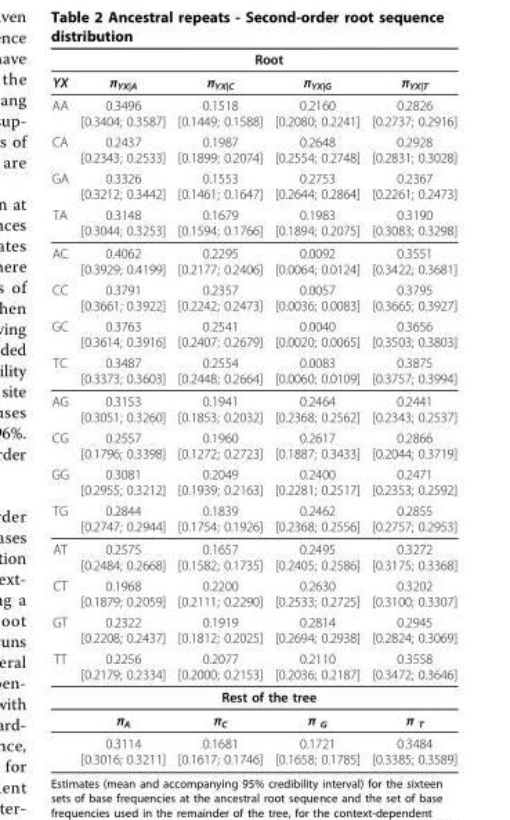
<table><thead><tr><td rowspan="2">YX</td><td colspan="4">Root</td></tr><tr><td>π<sub>YX|A</sub></td><td>π<sub>YX|C</sub></td><td>π<sub>YX|G</sub></td><td>π<sub>YX|T</sub></td></tr></thead><tbody><tr><td>AA</td><td>0.3496 [0.3404; 0.3587]</td><td>0.1518 [0.1449; 0.1588]</td><td>0.2160 [0.2080; 0.2241]</td><td>0.2826 [0.2737; 0.2916]</td></tr><tr><td>CA</td><td>0.2437 [0.2343; 0.2533]</td><td>0.1987 [0.1899; 0.2074]</td><td>0.2648 [0.2554; 0.2748]</td><td>0.2928 [0.2831; 0.3028]</td></tr><tr><td>GA</td><td>0.3326 [0.3212; 0.3442]</td><td>0.1553 [0.1461; 0.1647]</td><td>0.2753 [0.2644; 0.2864]</td><td>0.2367 [0.2261; 0.2473]</td></tr><tr><td>TA</td><td>0.3148 [0.3044; 0.3253]</td><td>0.1679 [0.1594; 0.1766]</td><td>0.1983 [0.1894; 0.2075]</td><td>0.3190 [0.3083; 0.3298]</td></tr><tr><td>AC</td><td>0.4062 [0.3929; 0.4199]</td><td>0.2295 [0.2177; 0.2406]</td><td>0.0092 [0.0064; 0.0124]</td><td>0.3551 [0.3422; 0.3681]</td></tr><tr><td>CC</td><td>0.3791 [0.3661; 0.3922]</td><td>0.2357 [0.2242; 0.2473]</td><td>0.0057 [0.0036; 0.0083]</td><td>0.3795 [0.3665; 0.3927]</td></tr><tr><td>GC</td><td>0.3763 [0.3614; 0.3916]</td><td>0.2541 [0.2407; 0.2679]</td><td>0.0040 [0.0020; 0.0065]</td><td>0.3656 [0.3503; 0.3803]</td></tr><tr><td>TC</td><td>0.3487 [0.3373; 0.3603]</td><td>0.2554 [0.2448; 0.2664]</td><td>0.0083 [0.0060; 0.0109]</td><td>0.3875 [0.3757; 0.3994]</td></tr><tr><td>AG</td><td>0.3153 [0.3051; 0.3260]</td><td>0.1941 [0.1853; 0.2032]</td><td>0.2464 [0.2368; 0.2562]</td><td>0.2441 [0.2343; 0.2537]</td></tr><tr><td>CG</td><td>0.2557 [0.1796; 0.3398]</td><td>0.1960 [0.1272; 0.2723]</td><td>0.2617 [0.1887; 0.3433]</td><td>0.2866 [0.2044; 0.3719]</td></tr><tr><td>GG</td><td>0.3081 [0.2955; 0.3212]</td><td>0.2049 [0.1939; 0.2163]</td><td>0.2400 [0.2281; 0.2517]</td><td>0.2471 [0.2353; 0.2592]</td></tr><tr><td>TG</td><td>0.2844 [0.2747; 0.2944]</td><td>0.1839 [0.1754; 0.1926]</td><td>0.2462 [0.2368; 0.2556]</td><td>0.2855 [0.2757; 0.2953]</td></tr><tr><td>AT</td><td>0.2575 [0.2484; 0.2668]</td><td>0.1657 [0.1582; 0.1735]</td><td>0.2495 [0.2405; 0.2586]</td><td>0.3272 [0.3175; 0.3368]</td></tr><tr><td>CT</td><td>0.1968 [0.1879; 0.2059]</td><td>0.2200 [0.2111; 0.2290]</td><td>0.2630 [0.2533; 0.2725]</td><td>0.3202 [0.3100; 0.3307]</td></tr><tr><td>GT</td><td>0.2322 [0.2208; 0.2437]</td><td>0.1919 [0.1812; 0.2025]</td><td>0.2814 [0.2694; 0.2938]</td><td>0.2945 [0.2824; 0.3069]</td></tr><tr><td rowspan="4">TT</td><td>0.2256 [0.2179; 0.2334]</td><td>0.2077 [0.2000; 0.2153]</td><td>0.2110 [0.2036; 0.2187]</td><td>0.3558 [0.3472; 0.3646]</td></tr><tr><td colspan="4">Rest of the tree</td></tr><tr><td>π<sub>A</sub></td><td>π<sub>C</sub></td><td>π <sub>G</sub></td><td>π <sub>T</sub></td></tr><tr><td>0.3114 [0.3016; 0.3211]</td><td>0.1681 [0.1617; 0.1746]</td><td>0.1721 [0.1658; 0.1785]</td><td>0.3484 [0.3385; 0.3589]</td></tr></tbody></table>